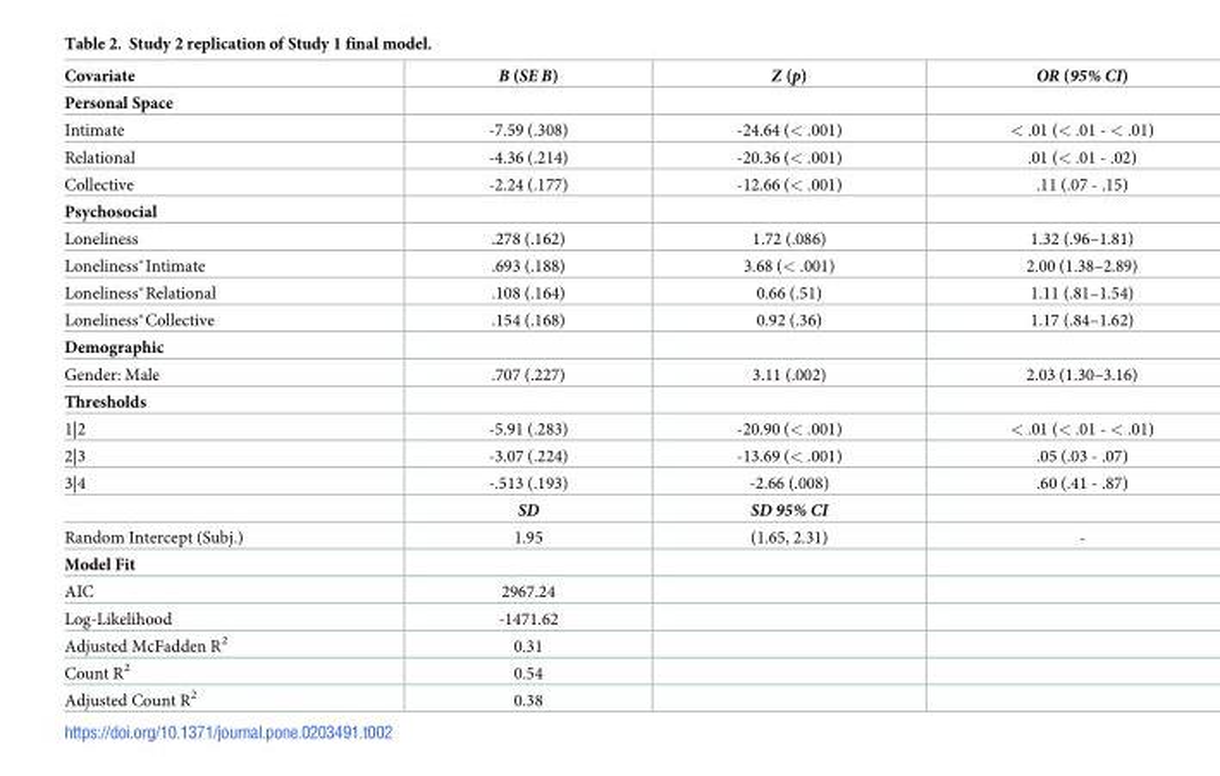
<table><thead><tr><td>Covariate</td><td>B (SE B)</td><td>Z (p)</td><td>OR (95% CI)</td></tr></thead><tbody><tr><td colspan="4">Personal Space</td></tr><tr><td>Intimate</td><td>-7.59 (.308)</td><td>-24.64 (&lt; .001)</td><td>&lt; .01 (&lt; .01 - &lt; .01)</td></tr><tr><td>Relational</td><td>-4.36 (.214)</td><td>-20.36 (&lt; .001)</td><td>.01 (&lt; .01 - .02)</td></tr><tr><td>Collective</td><td>-2.24 (.177)</td><td>-12.66 (&lt; .001)</td><td>.11 (.07 - .15)</td></tr><tr><td colspan="4">Psychosocial</td></tr><tr><td>Loneliness</td><td>.278 (.162)</td><td>1.72 (.086)</td><td>1.32 (.96–1.81)</td></tr><tr><td>Loneliness*Intimate</td><td>.693 (.188)</td><td>3.68 (&lt; .001)</td><td>2.00 (1.38–2.89)</td></tr><tr><td>Loneliness*Relational</td><td>.108 (.164)</td><td>0.66 (.51)</td><td>1.11 (.81–1.54)</td></tr><tr><td>Loneliness*Collective</td><td>.154 (.168)</td><td>0.92 (.36)</td><td>1.17 (.84–1.62)</td></tr><tr><td colspan="4">Demographic</td></tr><tr><td>Gender: Male</td><td>.707 (.227)</td><td>3.11 (.002)</td><td>2.03 (1.30–3.16)</td></tr><tr><td colspan="4">Thresholds</td></tr><tr><td>1|2</td><td>-5.91 (.283)</td><td>-20.90 (&lt; .001)</td><td>&lt; .01 (&lt; .01 - &lt; .01)</td></tr><tr><td>2|3</td><td>-3.07 (.224)</td><td>-13.69 (&lt; .001)</td><td>.05 (.03 - .07)</td></tr><tr><td rowspan="2">3|4</td><td>-.513 (.193)</td><td>-2.66 (.008)</td><td>.60 (.41 - .87)</td></tr><tr><td>SD</td><td>SD 95% CI</td><td></td></tr><tr><td>Random Intercept (Subj.)</td><td>1.95</td><td>(1.65, 2.31)</td><td>-</td></tr><tr><td colspan="4">Model Fit</td></tr><tr><td>AIC</td><td>2967.24</td><td></td><td></td></tr><tr><td>Log-Likelihood</td><td>-1471.62</td><td></td><td></td></tr><tr><td>Adjusted McFadden R<sup>2</sup></td><td>0.31</td><td></td><td></td></tr><tr><td>Count R<sup>2</sup></td><td>0.54</td><td></td><td></td></tr><tr><td>Adjusted Count R<sup>2</sup></td><td>0.38</td><td></td><td></td></tr></tbody></table>